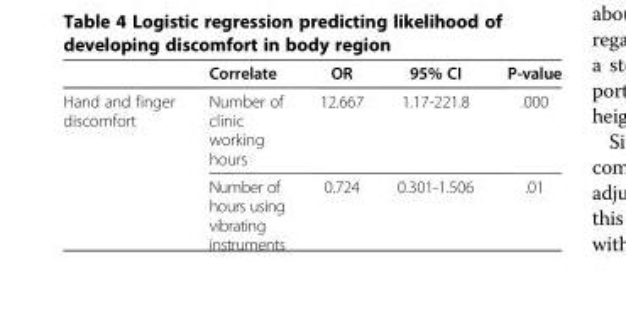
<table><thead><tr><td></td><td>Correlate</td><td>OR</td><td>95% CI</td><td>P-value</td></tr></thead><tbody><tr><td rowspan="2">Hand and finger discomfort</td><td>Number of clinic working hours</td><td>12.667</td><td>1.17-221.8</td><td>.000</td></tr><tr><td>Number of hours using vibrating instruments</td><td>0.724</td><td>0.301-1.506</td><td>.01</td></tr></tbody></table>